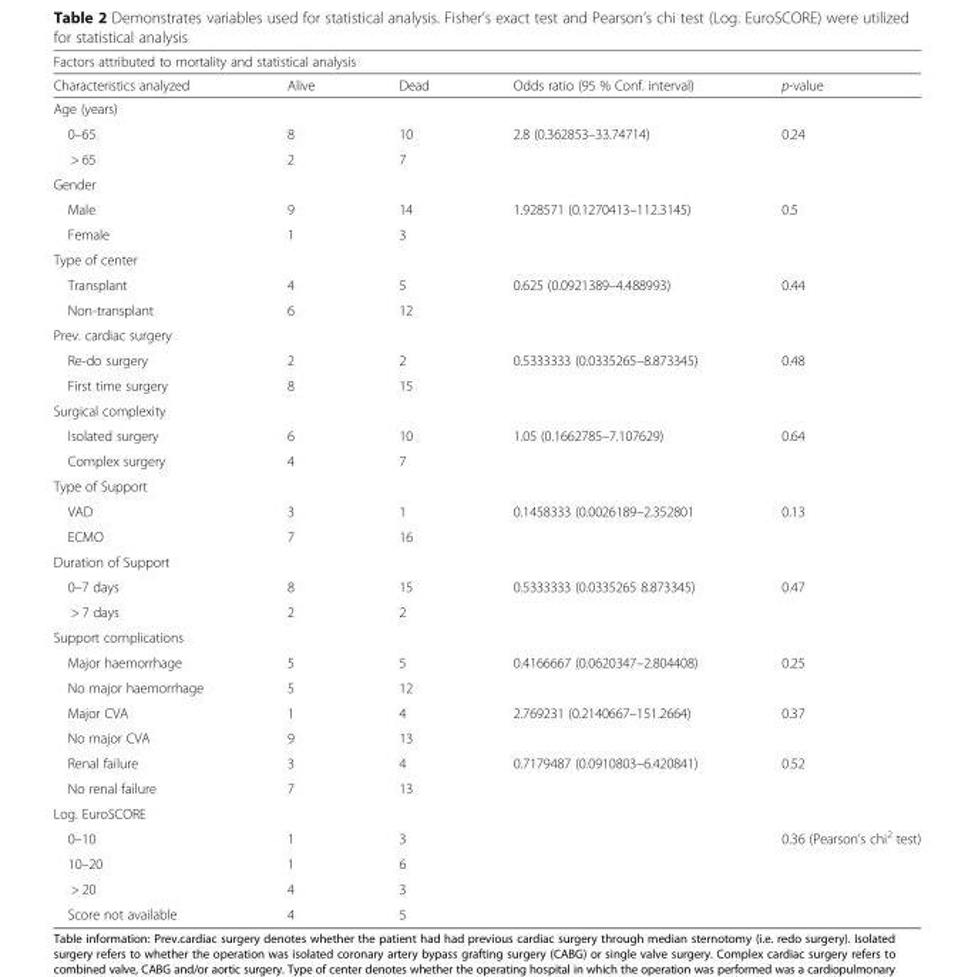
<table><thead><tr><td colspan="5">Factors attributed to mortality and statistical analysis</td></tr><tr><td>Characteristics analyzed</td><td>Alive</td><td>Dead</td><td>Odds ratio (95 % Conf. interval)</td><td>p-value</td></tr></thead><tbody><tr><td colspan="5">Age (years)</td></tr><tr><td>0–65</td><td>8</td><td>10</td><td rowspan="2">2.8 (0.362853–33.74714)</td><td rowspan="2">0.24</td></tr><tr><td>&gt; 65</td><td>2</td><td>7</td></tr><tr><td colspan="5">Gender</td></tr><tr><td>Male</td><td>9</td><td>14</td><td rowspan="2">1.928571 (0.1270413–112.3145)</td><td rowspan="2">0.5</td></tr><tr><td>Female</td><td>1</td><td>3</td></tr><tr><td colspan="5">Type of center</td></tr><tr><td>Transplant</td><td>4</td><td>5</td><td rowspan="2">0.625 (0.0921389–4.488993)</td><td rowspan="2">0.44</td></tr><tr><td>Non-transplant</td><td>6</td><td>12</td></tr><tr><td colspan="5">Prev. cardiac surgery</td></tr><tr><td>Re-do surgery</td><td>2</td><td>2</td><td rowspan="2">0.5333333 (0.0335265–8.873345)</td><td rowspan="2">0.48</td></tr><tr><td>First time surgery</td><td>8</td><td>15</td></tr><tr><td colspan="5">Surgical complexity</td></tr><tr><td>Isolated surgery</td><td>6</td><td>10</td><td rowspan="2">1.05 (0.1662785–7.107629)</td><td rowspan="2">0.64</td></tr><tr><td>Complex surgery</td><td>4</td><td>7</td></tr><tr><td colspan="5">Type of Support</td></tr><tr><td>VAD</td><td>3</td><td>1</td><td rowspan="2">0.1458333 (0.0026189–2.352801</td><td rowspan="2">0.13</td></tr><tr><td>ECMO</td><td>7</td><td>16</td></tr><tr><td colspan="5">Duration of Support</td></tr><tr><td>0–7 days</td><td>8</td><td>15</td><td rowspan="2">0.5333333 (0.0335265 8.873345)</td><td rowspan="2">0.47</td></tr><tr><td>&gt; 7 days</td><td>2</td><td>2</td></tr><tr><td colspan="5">Support complications</td></tr><tr><td>Major haemorrhage</td><td>5</td><td>5</td><td rowspan="2">0.4166667 (0.0620347–2.804408)</td><td rowspan="2">0.25</td></tr><tr><td>No major haemorrhage</td><td>5</td><td>12</td></tr><tr><td>Major CVA</td><td>1</td><td>4</td><td rowspan="2">2.769231 (0.2140667–151.2664)</td><td rowspan="2">0.37</td></tr><tr><td>No major CVA</td><td>9</td><td>13</td></tr><tr><td>Renal failure</td><td>3</td><td>4</td><td rowspan="2">0.7179487 (0.0910803–6.420841)</td><td rowspan="2">0.52</td></tr><tr><td>No renal failure</td><td>7</td><td>13</td></tr><tr><td colspan="5">Log. EuroSCORE</td></tr><tr><td>0–10</td><td>1</td><td>3</td><td rowspan="4"></td><td rowspan="4">0.36 (Pearson’s chi<sup>2</sup> test)</td></tr><tr><td>10–20</td><td>1</td><td>6</td></tr><tr><td>&gt; 20</td><td>4</td><td>3</td></tr><tr><td>Score not available</td><td>4</td><td>5</td></tr></tbody></table>